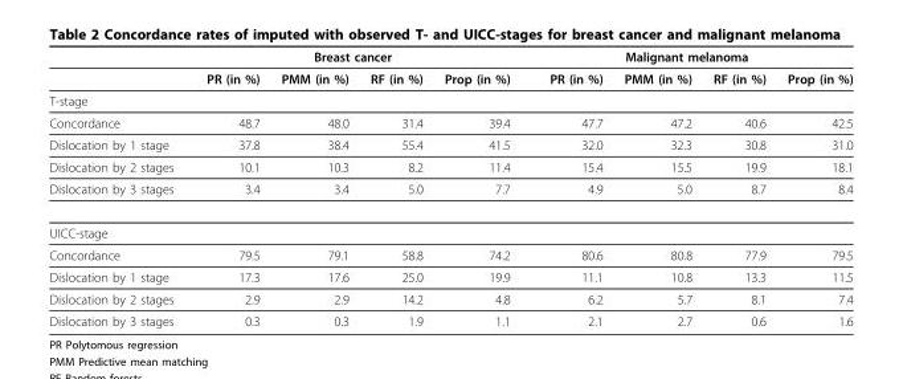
<table><thead><tr><td rowspan="2"></td><td colspan="4">Breast cancer</td><td colspan="4">Malignant melanoma</td></tr><tr><td>PR (in %)</td><td>PMM (in %)</td><td>RF (in %)</td><td>Prop (in %)</td><td>PR (in %)</td><td>PMM (in %)</td><td>RF (in %)</td><td>Prop (in %)</td></tr></thead><tbody><tr><td colspan="9">T-stage</td></tr><tr><td>Concordance</td><td>48.7</td><td>48.0</td><td>31.4</td><td>39.4</td><td>47.7</td><td>47.2</td><td>40.6</td><td>42.5</td></tr><tr><td>Dislocation by 1 stage</td><td>37.8</td><td>38.4</td><td>55.4</td><td>41.5</td><td>32.0</td><td>32.3</td><td>30.8</td><td>31.0</td></tr><tr><td>Dislocation by 2 stages</td><td>10.1</td><td>10.3</td><td>8.2</td><td>11.4</td><td>15.4</td><td>15.5</td><td>19.9</td><td>18.1</td></tr><tr><td>Dislocation by 3 stages</td><td>3.4</td><td>3.4</td><td>5.0</td><td>7.7</td><td>4.9</td><td>5.0</td><td>8.7</td><td>8.4</td></tr><tr><td colspan="9">UICC-stage</td></tr><tr><td>Concordance</td><td>79.5</td><td>79.1</td><td>58.8</td><td>74.2</td><td>80.6</td><td>80.8</td><td>77.9</td><td>79.5</td></tr><tr><td>Dislocation by 1 stage</td><td>17.3</td><td>17.6</td><td>25.0</td><td>19.9</td><td>11.1</td><td>10.8</td><td>13.3</td><td>11.5</td></tr><tr><td>Dislocation by 2 stages</td><td>2.9</td><td>2.9</td><td>14.2</td><td>4.8</td><td>6.2</td><td>5.7</td><td>8.1</td><td>7.4</td></tr><tr><td>Dislocation by 3 stages</td><td>0.3</td><td>0.3</td><td>1.9</td><td>1.1</td><td>2.1</td><td>2.7</td><td>0.6</td><td>1.6</td></tr></tbody></table>